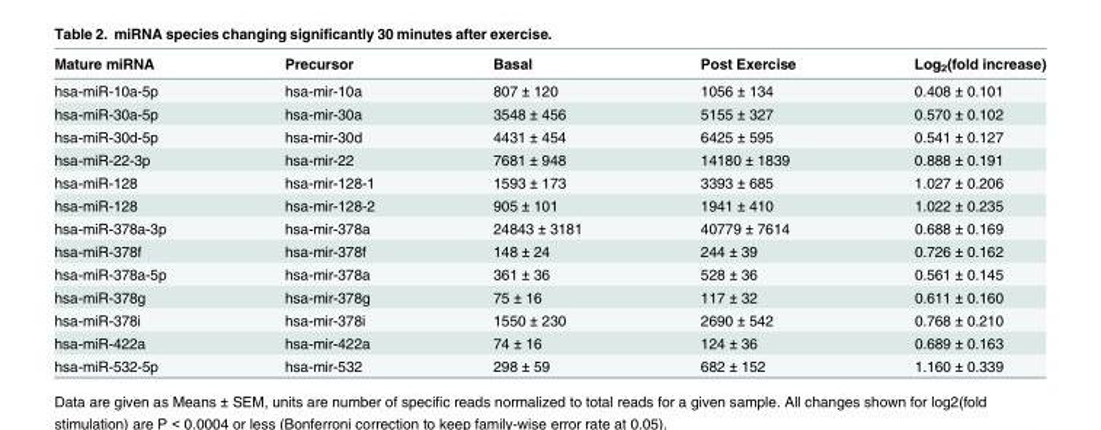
<table><thead><tr><td>Mature miRNA</td><td>Precursor</td><td>Basal</td><td>Post Exercise</td><td>Log<sub>2</sub>(fold increase)</td></tr></thead><tbody><tr><td>hsa-miR-10a-5p</td><td>hsa-mir-10a</td><td>807 ± 120</td><td>1056 ± 134</td><td>0.408 ± 0.101</td></tr><tr><td>hsa-miR-30a-5p</td><td>hsa-mir-30a</td><td>3548 ± 456</td><td>5155 ± 327</td><td>0.570 ± 0.102</td></tr><tr><td>hsa-miR-30d-5p</td><td>hsa-mir-30d</td><td>4431 ± 454</td><td>6425 ± 595</td><td>0.541 ± 0.127</td></tr><tr><td>hsa-miR-22-3p</td><td>hsa-mir-22</td><td>7681 ± 948</td><td>14180 ± 1839</td><td>0.888 ± 0.191</td></tr><tr><td>hsa-miR-128</td><td>hsa-mir-128-1</td><td>1593 ± 173</td><td>3393 ± 685</td><td>1.027 ± 0.206</td></tr><tr><td>hsa-miR-128</td><td>hsa-mir-128-2</td><td>905 ± 101</td><td>1941 ± 410</td><td>1.022 ± 0.235</td></tr><tr><td>hsa-miR-378a-3p</td><td>hsa-mir-378a</td><td>24843 ± 3181</td><td>40779 ± 7614</td><td>0.688 ± 0.169</td></tr><tr><td>hsa-miR-378f</td><td>hsa-mir-378f</td><td>148 ± 24</td><td>244 ± 39</td><td>0.726 ± 0.162</td></tr><tr><td>hsa-miR-378a-5p</td><td>hsa-mir-378a</td><td>361 ± 36</td><td>528 ± 36</td><td>0.561 ± 0.145</td></tr><tr><td>hsa-miR-378g</td><td>hsa-mir-378g</td><td>75 ± 16</td><td>117 ± 32</td><td>0.611 ± 0.160</td></tr><tr><td>hsa-miR-378i</td><td>hsa-mir-378i</td><td>1550 ± 230</td><td>2690 ± 542</td><td>0.768 ± 0.210</td></tr><tr><td>hsa-miR-422a</td><td>hsa-mir-422a</td><td>74 ± 16</td><td>124 ± 36</td><td>0.689 ± 0.163</td></tr><tr><td>hsa-miR-532-5p</td><td>hsa-mir-532</td><td>298 ± 59</td><td>682 ± 152</td><td>1.160 ± 0.339</td></tr></tbody></table>